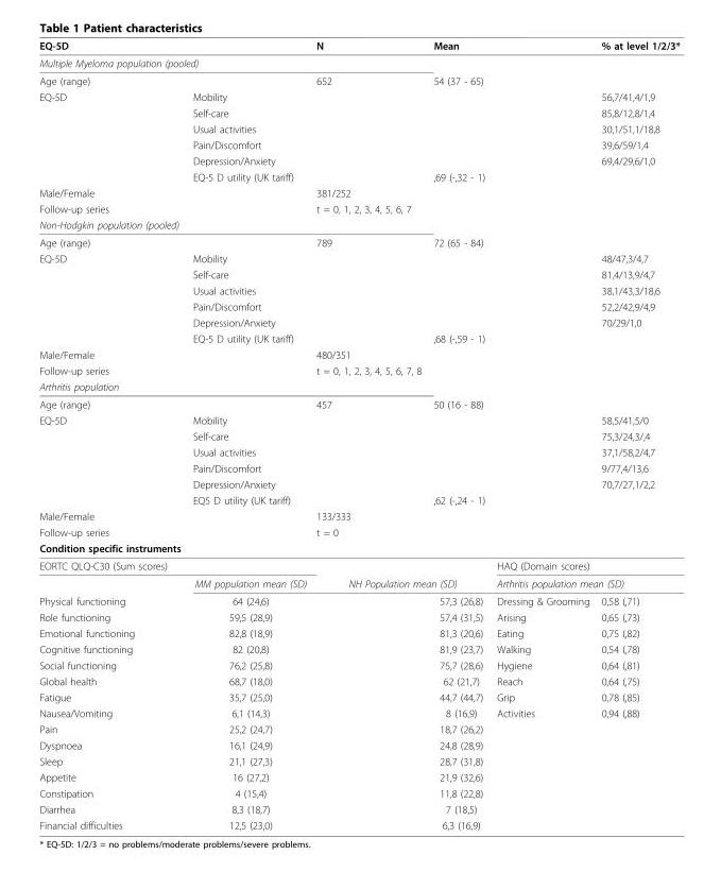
<table><thead><tr><td>EQ-5D</td><td></td><td>N</td><td>Mean</td><td></td><td>% at level 1/2/3*</td></tr></thead><tbody><tr><td colspan="6">Multiple Myeloma population (pooled)</td></tr><tr><td>Age (range)</td><td></td><td>652</td><td>54 (37 - 65)</td><td></td><td></td></tr><tr><td rowspan="6">EQ-5D</td><td>Mobility</td><td></td><td></td><td></td><td>56,7/41,4/1,9</td></tr><tr><td>Self-care</td><td></td><td></td><td></td><td>85,8/12,8/1,4</td></tr><tr><td>Usual activities</td><td></td><td></td><td></td><td>30,1/51,1/18,8</td></tr><tr><td>Pain/Discomfort</td><td></td><td></td><td></td><td>39,6/59/1,4</td></tr><tr><td>Depression/Anxiety</td><td></td><td></td><td></td><td>69,4/29,6/1,0</td></tr><tr><td>EQ-5 D utility (UK tariff)</td><td></td><td>,69 (-,32 - 1)</td><td></td><td></td></tr><tr><td>Male/Female</td><td></td><td>381/252</td><td></td><td></td><td></td></tr><tr><td>Follow-up series</td><td></td><td>t = 0, 1, 2, 3, 4, 5, 6, 7</td><td></td><td></td><td></td></tr><tr><td colspan="6">Non-Hodgkin population (pooled)</td></tr><tr><td>Age (range)</td><td></td><td>789</td><td>72 (65 - 84)</td><td></td><td></td></tr><tr><td rowspan="6">EQ-5D</td><td>Mobility</td><td></td><td></td><td></td><td>48/47,3/4,7</td></tr><tr><td>Self-care</td><td></td><td></td><td></td><td>81,4/13,9/4,7</td></tr><tr><td>Usual activities</td><td></td><td></td><td></td><td>38,1/43,3/18,6</td></tr><tr><td>Pain/Discomfort</td><td></td><td></td><td></td><td>52,2/42,9/4,9</td></tr><tr><td>Depression/Anxiety</td><td></td><td></td><td></td><td>70/29/1,0</td></tr><tr><td>EQ-5 D utility (UK tariff)</td><td></td><td>,68 (-,59 - 1)</td><td></td><td></td></tr><tr><td>Male/Female</td><td></td><td>480/351</td><td></td><td></td><td></td></tr><tr><td>Follow-up series</td><td></td><td>t = 0, 1, 2, 3, 4, 5, 6, 7, 8</td><td></td><td></td><td></td></tr><tr><td colspan="6">Arthritis population</td></tr><tr><td>Age (range)</td><td></td><td>457</td><td>50 (16 - 88)</td><td></td><td></td></tr><tr><td rowspan="6">EQ-5D</td><td>Mobility</td><td></td><td></td><td></td><td>58,5/41,5/0</td></tr><tr><td>Self-care</td><td></td><td></td><td></td><td>75,3/24,3/,4</td></tr><tr><td>Usual activities</td><td></td><td></td><td></td><td>37,1/58,2/4,7</td></tr><tr><td>Pain/Discomfort</td><td></td><td></td><td></td><td>9/77,4/13,6</td></tr><tr><td>Depression/Anxiety</td><td></td><td></td><td></td><td>70,7/27,1/2,2</td></tr><tr><td>EQ5 D utility (UK tariff)</td><td></td><td>,62 (-,24 - 1)</td><td></td><td></td></tr><tr><td>Male/Female</td><td></td><td>133/333</td><td></td><td></td><td></td></tr><tr><td>Follow-up series</td><td></td><td>t = 0</td><td></td><td></td><td></td></tr><tr><td colspan="6">Condition specific instruments</td></tr><tr><td colspan="2">EORTC QLQ-C30 (Sum scores)</td><td></td><td></td><td colspan="2">HAQ (Domain scores)</td></tr><tr><td></td><td>MM population mean (SD)</td><td colspan="2">NH Population mean (SD)</td><td colspan="2">Arthritis population mean (SD)</td></tr><tr><td>Physical functioning</td><td>64 (24,6)</td><td></td><td>57,3 (26,8)</td><td>Dressing &amp; Grooming</td><td>0,58 (,71)</td></tr><tr><td>Role functioning</td><td>59,5 (28,9)</td><td></td><td>57,4 (31,5)</td><td>Arising</td><td>0,65 (,73)</td></tr><tr><td>Emotional functioning</td><td>82,8 (18,9)</td><td></td><td>81,3 (20,6)</td><td>Eating</td><td>0,75 (,82)</td></tr><tr><td>Cognitive functioning</td><td>82 (20,8)</td><td></td><td>81,9 (23,7)</td><td>Walking</td><td>0,54 (,78)</td></tr><tr><td>Social functioning</td><td>76,2 (25,8)</td><td></td><td>75,7 (28,6)</td><td>Hygiene</td><td>0,64 (,81)</td></tr><tr><td>Global health</td><td>68,7 (18,0)</td><td></td><td>62 (21,7)</td><td>Reach</td><td>0,64 (,75)</td></tr><tr><td>Fatigue</td><td>35,7 (25,0)</td><td></td><td>44,7 (44,7)</td><td>Grip</td><td>0,78 (,85)</td></tr><tr><td>Nausea/Vomiting</td><td>6,1 (14,3)</td><td></td><td>8 (16,9)</td><td>Activities</td><td>0,94 (,88)</td></tr><tr><td>Pain</td><td>25,2 (24,7)</td><td></td><td>18,7 (26,2)</td><td></td><td></td></tr><tr><td>Dyspnoea</td><td>16,1 (24,9)</td><td></td><td>24,8 (28,9)</td><td></td><td></td></tr><tr><td>Sleep</td><td>21,1 (27,3)</td><td></td><td>28,7 (31,8)</td><td></td><td></td></tr><tr><td>Appetite</td><td>16 (27,2)</td><td></td><td>21,9 (32,6)</td><td></td><td></td></tr><tr><td>Constipation</td><td>4 (15,4)</td><td></td><td>11,8 (22,8)</td><td></td><td></td></tr><tr><td>Diarrhea</td><td>8,3 (18,7)</td><td></td><td>7 (18,5)</td><td></td><td></td></tr><tr><td>Financial difficulties</td><td>12,5 (23,0)</td><td></td><td>6,3 (16,9)</td><td></td><td></td></tr></tbody></table>